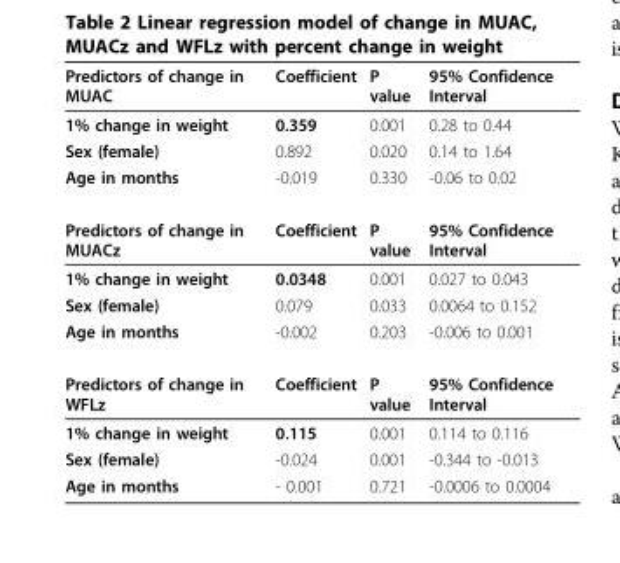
<table><thead><tr><td>Predictors of change in MUAC</td><td>Coefficient</td><td>P value</td><td>95% Confidence Interval</td></tr></thead><tbody><tr><td>1% change in weight</td><td>0.359</td><td>0.001</td><td>0.28 to 0.44</td></tr><tr><td>Sex (female)</td><td>0.892</td><td>0.020</td><td>0.14 to 1.64</td></tr><tr><td>Age in months</td><td>-0.019</td><td>0.330</td><td>-0.06 to 0.02</td></tr><tr><td>Predictors of change in MUACz</td><td>Coefficient</td><td>P value</td><td>95% Confidence Interval</td></tr><tr><td>1% change in weight</td><td>0.0348</td><td>0.001</td><td>0.027 to 0.043</td></tr><tr><td>Sex (female)</td><td>0.079</td><td>0.033</td><td>0.0064 to 0.152</td></tr><tr><td>Age in months</td><td>-0.002</td><td>0.203</td><td>-0.006 to 0.001</td></tr><tr><td>Predictors of change in WFLz</td><td>Coefficient</td><td>P value</td><td>95% Confidence Interval</td></tr><tr><td>1% change in weight</td><td>0.115</td><td>0.001</td><td>0.114 to 0.116</td></tr><tr><td>Sex (female)</td><td>-0.024</td><td>0.001</td><td>-0.344 to -0.013</td></tr><tr><td>Age in months</td><td>- 0.001</td><td>0.721</td><td>-0.0006 to 0.0004</td></tr></tbody></table>